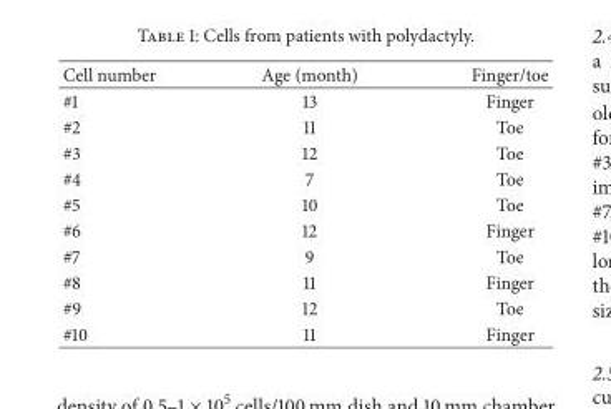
<table><thead><tr><td>Cell number</td><td>Age (month)</td><td>Finger/toe</td></tr></thead><tbody><tr><td>#1</td><td>13</td><td>Finger</td></tr><tr><td>#2</td><td>11</td><td>Toe</td></tr><tr><td>#3</td><td>12</td><td>Toe</td></tr><tr><td>#4</td><td>7</td><td>Toe</td></tr><tr><td>#5</td><td>10</td><td>Toe</td></tr><tr><td>#6</td><td>12</td><td>Finger</td></tr><tr><td>#7</td><td>9</td><td>Toe</td></tr><tr><td>#8</td><td>11</td><td>Finger</td></tr><tr><td>#9</td><td>12</td><td>Toe</td></tr><tr><td>#10</td><td>11</td><td>Finger</td></tr></tbody></table>